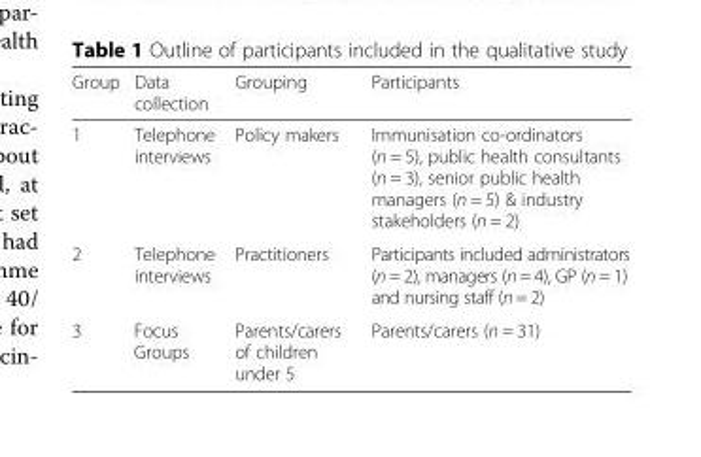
<table><thead><tr><td>Group</td><td>Data collection</td><td>Grouping</td><td>Participants</td></tr></thead><tbody><tr><td>1</td><td>Telephone interviews</td><td>Policy makers</td><td>Immunisation co-ordinators (n = 5), public health consultants (n = 3), senior public health managers (n = 5) &amp; industry stakeholders (n = 2)</td></tr><tr><td>2</td><td>Telephone interviews</td><td>Practitioners</td><td>Participants included administrators (n = 2), managers (n = 4), GP (n = 1) and nursing staff (n = 2)</td></tr><tr><td>3</td><td>Focus Groups</td><td>Parents/carers of children under 5</td><td>Parents/carers (n = 31)</td></tr></tbody></table>